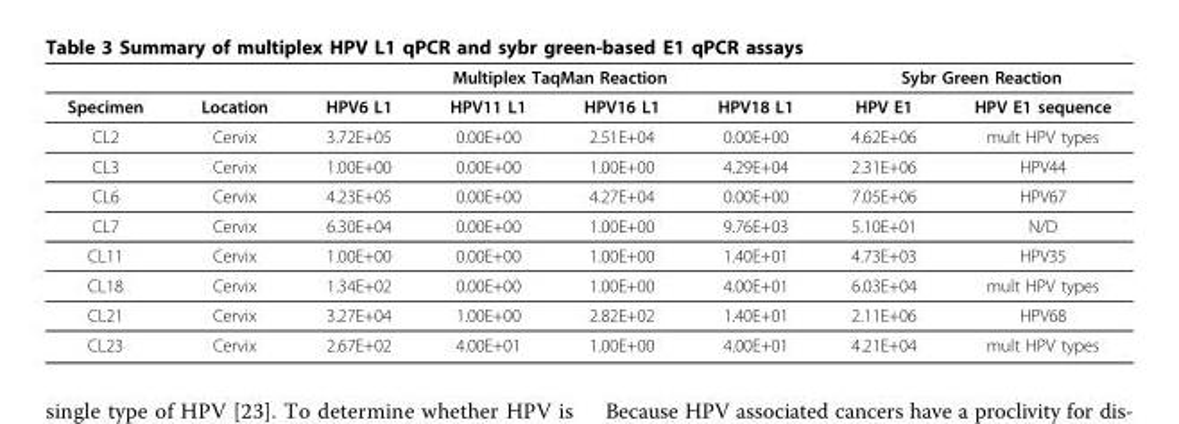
<table><thead><tr><td rowspan="2">Specimen</td><td rowspan="2">Location</td><td colspan="4">Multiplex TaqMan Reaction</td><td colspan="2">Sybr Green Reaction</td></tr><tr><td>HPV6 L1</td><td>HPV11 L1</td><td>HPV16 L1</td><td>HPV18 L1</td><td>HPV E1</td><td>HPV E1 sequence</td></tr></thead><tbody><tr><td>CL2</td><td>Cervix</td><td>3.72E+05</td><td>0.00E+00</td><td>2.51E+04</td><td>0.00E+00</td><td>4.62E+06</td><td>mult HPV types</td></tr><tr><td>CL3</td><td>Cervix</td><td>1.00E+00</td><td>0.00E+00</td><td>1.00E+00</td><td>4.29E+04</td><td>2.31E+06</td><td>HPV44</td></tr><tr><td>CL6</td><td>Cervix</td><td>4.23E+05</td><td>0.00E+00</td><td>4.27E+04</td><td>0.00E+00</td><td>7.05E+06</td><td>HPV67</td></tr><tr><td>CL7</td><td>Cervix</td><td>6.30E+04</td><td>0.00E+00</td><td>1.00E+00</td><td>9.76E+03</td><td>5.10E+01</td><td>N/D</td></tr><tr><td>CL11</td><td>Cervix</td><td>1.00E+00</td><td>0.00E+00</td><td>1.00E+00</td><td>1.40E+01</td><td>4.73E+03</td><td>HPV35</td></tr><tr><td>CL18</td><td>Cervix</td><td>1.34E+02</td><td>0.00E+00</td><td>1.00E+00</td><td>4.00E+01</td><td>6.03E+04</td><td>mult HPV types</td></tr><tr><td>CL21</td><td>Cervix</td><td>3.27E+04</td><td>1.00E+00</td><td>2.82E+02</td><td>1.40E+01</td><td>2.11E+06</td><td>HPV68</td></tr><tr><td>CL23</td><td>Cervix</td><td>2.67E+02</td><td>4.00E+01</td><td>1.00E+00</td><td>4.00E+01</td><td>4.21E+04</td><td>mult HPV types</td></tr></tbody></table>